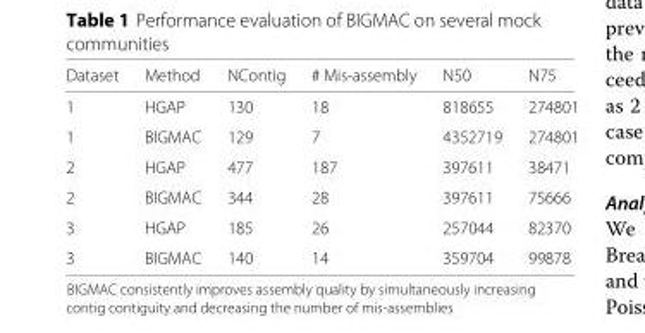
<table><thead><tr><td>Dataset</td><td>Method</td><td>NContig</td><td># Mis-assembly</td><td>N50</td><td>N75</td></tr></thead><tbody><tr><td>1</td><td>HGAP</td><td>130</td><td>18</td><td>818655</td><td>274801</td></tr><tr><td>1</td><td>BIGMAC</td><td>129</td><td>7</td><td>4352719</td><td>274801</td></tr><tr><td>2</td><td>HGAP</td><td>477</td><td>187</td><td>397611</td><td>38471</td></tr><tr><td>2</td><td>BIGMAC</td><td>344</td><td>28</td><td>397611</td><td>75666</td></tr><tr><td>3</td><td>HGAP</td><td>185</td><td>26</td><td>257044</td><td>82370</td></tr><tr><td>3</td><td>BIGMAC</td><td>140</td><td>14</td><td>359704</td><td>99878</td></tr></tbody></table>